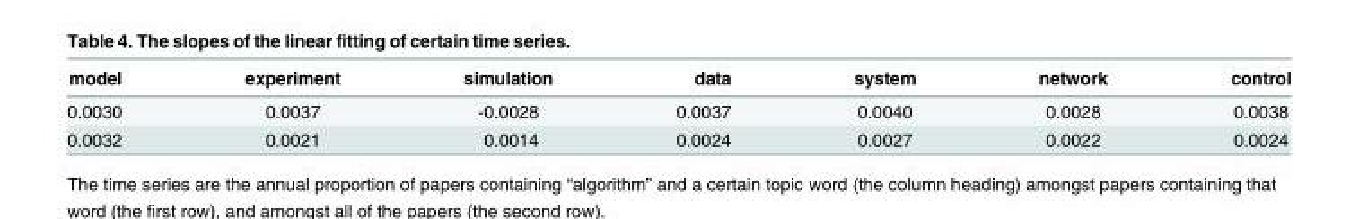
<table><thead><tr><td>model</td><td>experiment</td><td>simulation</td><td>data</td><td>system</td><td>network</td><td>control</td></tr></thead><tbody><tr><td>0.0030</td><td>0.0037</td><td>-0.0028</td><td>0.0037</td><td>0.0040</td><td>0.0028</td><td>0.0038</td></tr><tr><td>0.0032</td><td>0.0021</td><td>0.0014</td><td>0.0024</td><td>0.0027</td><td>0.0022</td><td>0.0024</td></tr></tbody></table>